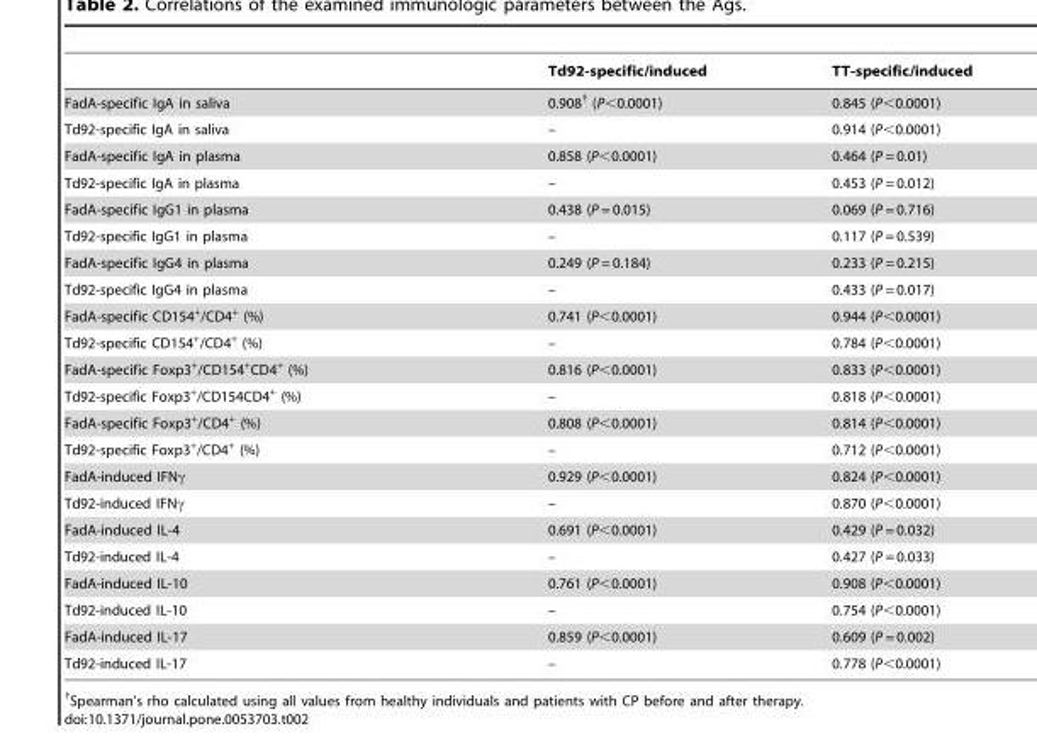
<table><thead><tr><td></td><td>Td92-specific/induced</td><td>TT-specific/induced</td></tr></thead><tbody><tr><td>FadA-specific IgA in saliva</td><td>0.908† (P&lt;0.0001)</td><td>0.845 (P&lt;0.0001)</td></tr><tr><td>Td92-specific IgA in saliva</td><td>–</td><td>0.914 (P&lt;0.0001)</td></tr><tr><td>FadA-specific IgA in plasma</td><td>0.858 (P&lt;0.0001)</td><td>0.464 (P = 0.01)</td></tr><tr><td>Td92-specific IgA in plasma</td><td>–</td><td>0.453 (P = 0.012)</td></tr><tr><td>FadA-specific IgG1 in plasma</td><td>0.438 (P = 0.015)</td><td>0.069 (P = 0.716)</td></tr><tr><td>Td92-specific IgG1 in plasma</td><td>–</td><td>0.117 (P = 0.539)</td></tr><tr><td>FadA-specific IgG4 in plasma</td><td>0.249 (P = 0.184)</td><td>0.233 (P = 0.215)</td></tr><tr><td>Td92-specific IgG4 in plasma</td><td>–</td><td>0.433 (P = 0.017)</td></tr><tr><td>FadA-specific CD154<sup>+</sup>/CD4<sup>+</sup> (%)</td><td>0.741 (P&lt;0.0001)</td><td>0.944 (P&lt;0.0001)</td></tr><tr><td>Td92-specific CD154<sup>+</sup>/CD4<sup>+</sup> (%)</td><td>–</td><td>0.784 (P&lt;0.0001)</td></tr><tr><td>FadA-specific Foxp3<sup>+</sup>/CD154<sup>+</sup>CD4<sup>+</sup> (%)</td><td>0.816 (P&lt;0.0001)</td><td>0.833 (P&lt;0.0001)</td></tr><tr><td>Td92-specific Foxp3<sup>+</sup>/CD154CD4<sup>+</sup> (%)</td><td>–</td><td>0.818 (P&lt;0.0001)</td></tr><tr><td>FadA-specific Foxp3<sup>+</sup>/CD4<sup>+</sup> (%)</td><td>0.808 (P&lt;0.0001)</td><td>0.814 (P&lt;0.0001)</td></tr><tr><td>Td92-specific Foxp3<sup>+</sup>/CD4<sup>+</sup> (%)</td><td>–</td><td>0.712 (P&lt;0.0001)</td></tr><tr><td>FadA-induced IFNγ</td><td>0.929 (P&lt;0.0001)</td><td>0.824 (P&lt;0.0001)</td></tr><tr><td>Td92-induced IFNγ</td><td>–</td><td>0.870 (P&lt;0.0001)</td></tr><tr><td>FadA-induced IL-4</td><td>0.691 (P&lt;0.0001)</td><td>0.429 (P = 0.032)</td></tr><tr><td>Td92-induced IL-4</td><td>–</td><td>0.427 (P = 0.033)</td></tr><tr><td>FadA-induced IL-10</td><td>0.761 (P&lt;0.0001)</td><td>0.908 (P&lt;0.0001)</td></tr><tr><td>Td92-induced IL-10</td><td>–</td><td>0.754 (P&lt;0.0001)</td></tr><tr><td>FadA-induced IL-17</td><td>0.859 (P&lt;0.0001)</td><td>0.609 (P = 0.002)</td></tr><tr><td>Td92-induced IL-17</td><td>–</td><td>0.778 (P&lt;0.0001)</td></tr></tbody></table>